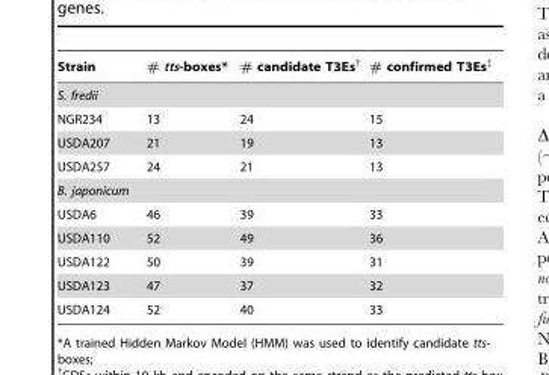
<table><thead><tr><td>Strain</td><td># tts-boxes*</td><td># candidate T3Es†</td><td># confirmed T3Es‡</td></tr></thead><tbody><tr><td colspan="4">S. fredii</td></tr><tr><td>NGR234</td><td>13</td><td>24</td><td>15</td></tr><tr><td>USDA207</td><td>21</td><td>19</td><td>13</td></tr><tr><td>USDA257</td><td>24</td><td>21</td><td>13</td></tr><tr><td colspan="4">B. japonicum</td></tr><tr><td>USDA6</td><td>46</td><td>39</td><td>33</td></tr><tr><td>USDA110</td><td>52</td><td>49</td><td>36</td></tr><tr><td>USDA122</td><td>50</td><td>39</td><td>31</td></tr><tr><td>USDA123</td><td>47</td><td>37</td><td>32</td></tr><tr><td>USDA124</td><td>52</td><td>40</td><td>33</td></tr></tbody></table>